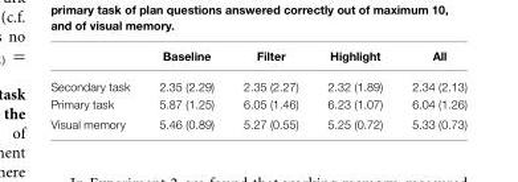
<table><thead><tr><td></td><td>Baseline</td><td>Filter</td><td>Highlight</td><td>All</td></tr></thead><tbody><tr><td>Secondary task</td><td>2.35 (2.29)</td><td>2.35 (2.27)</td><td>2.32 (1.89)</td><td>2.34 (2.13)</td></tr><tr><td>Primary task</td><td>5.87 (1.25)</td><td>6.05 (1.46)</td><td>6.23 (1.07)</td><td>6.04 (1.26)</td></tr><tr><td>Visual memory</td><td>5.46 (0.89)</td><td>5.27 (0.55)</td><td>5.25 (0.72)</td><td>5.33 (0.73)</td></tr></tbody></table>